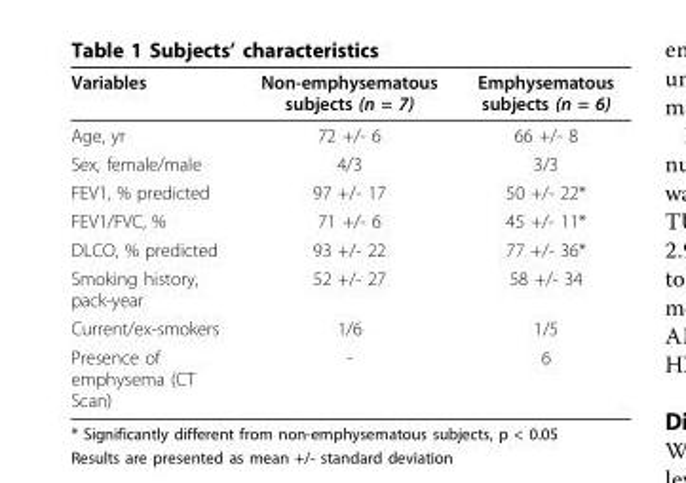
<table><thead><tr><td>Variables</td><td>Non-emphysematous subjects (n = 7)</td><td>Emphysematous subjects (n = 6)</td></tr></thead><tbody><tr><td>Age, yr</td><td>72 +/- 6</td><td>66 +/- 8</td></tr><tr><td>Sex, female/male</td><td>4/3</td><td>3/3</td></tr><tr><td>FEV1, % predicted</td><td>97 +/- 17</td><td>50 +/- 22*</td></tr><tr><td>FEV1/FVC, %</td><td>71 +/- 6</td><td>45 +/- 11*</td></tr><tr><td>DLCO, % predicted</td><td>93 +/- 22</td><td>77 +/- 36*</td></tr><tr><td>Smoking history, pack-year</td><td>52 +/- 27</td><td>58 +/- 34</td></tr><tr><td>Current/ex-smokers</td><td>1/6</td><td>1/5</td></tr><tr><td>Presence of emphysema (CT Scan)</td><td>-</td><td>6</td></tr></tbody></table>